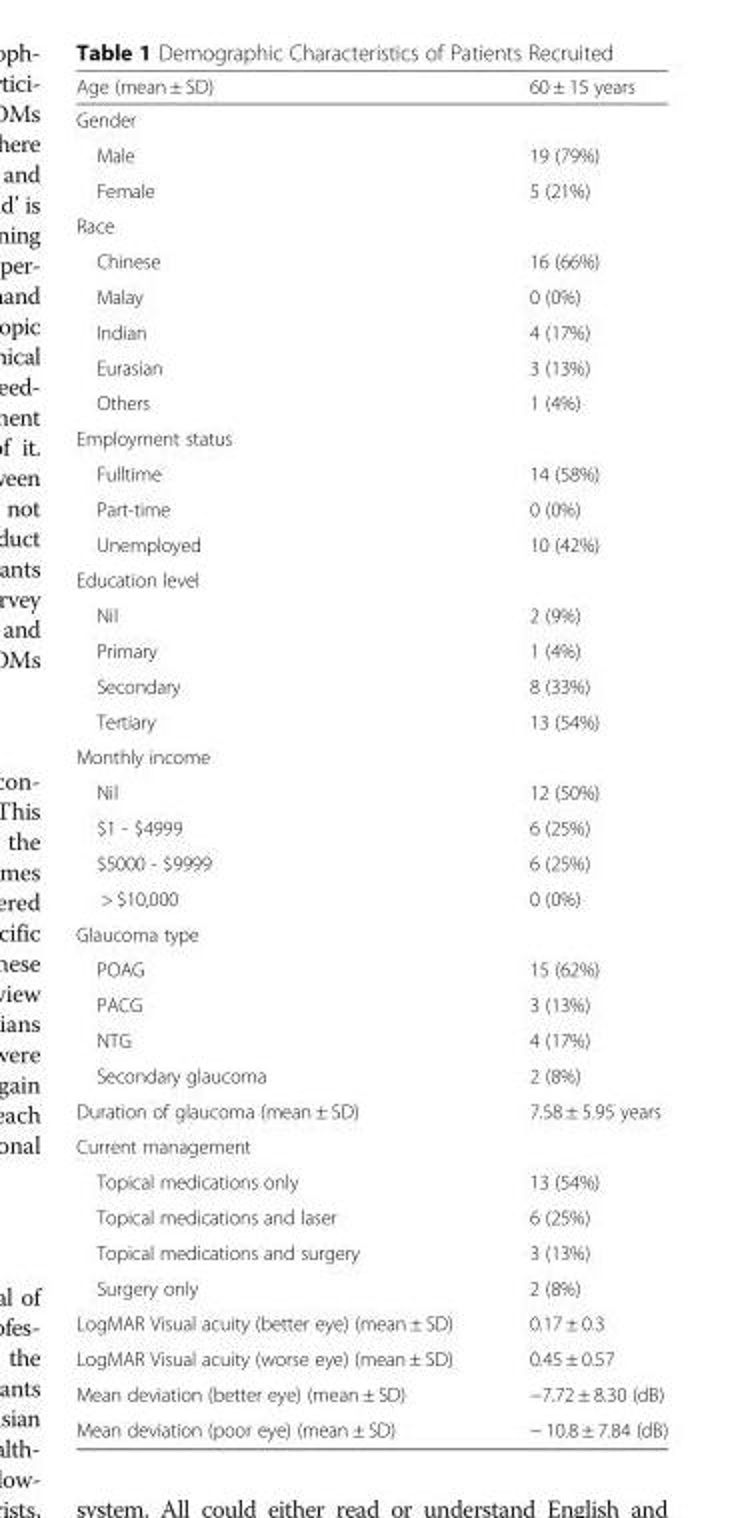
<table><thead><tr><td>Age (mean ± SD)</td><td>60 ± 15 years</td></tr></thead><tbody><tr><td colspan="2">Gender</td></tr><tr><td>Male</td><td>19 (79%)</td></tr><tr><td>Female</td><td>5 (21%)</td></tr><tr><td colspan="2">Race</td></tr><tr><td>Chinese</td><td>16 (66%)</td></tr><tr><td>Malay</td><td>0 (0%)</td></tr><tr><td>Indian</td><td>4 (17%)</td></tr><tr><td>Eurasian</td><td>3 (13%)</td></tr><tr><td>Others</td><td>1 (4%)</td></tr><tr><td colspan="2">Employment status</td></tr><tr><td>Fulltime</td><td>14 (58%)</td></tr><tr><td>Part-time</td><td>0 (0%)</td></tr><tr><td>Unemployed</td><td>10 (42%)</td></tr><tr><td colspan="2">Education level</td></tr><tr><td>Nil</td><td>2 (9%)</td></tr><tr><td>Primary</td><td>1 (4%)</td></tr><tr><td>Secondary</td><td>8 (33%)</td></tr><tr><td>Tertiary</td><td>13 (54%)</td></tr><tr><td colspan="2">Monthly income</td></tr><tr><td>Nil</td><td>12 (50%)</td></tr><tr><td>$1 - $4999</td><td>6 (25%)</td></tr><tr><td>$5000 - $9999</td><td>6 (25%)</td></tr><tr><td>&gt; $10,000</td><td>0 (0%)</td></tr><tr><td colspan="2">Glaucoma type</td></tr><tr><td>POAG</td><td>15 (62%)</td></tr><tr><td>PACG</td><td>3 (13%)</td></tr><tr><td>NTG</td><td>4 (17%)</td></tr><tr><td>Secondary glaucoma</td><td>2 (8%)</td></tr><tr><td>Duration of glaucoma (mean ± SD)</td><td>7.58 ± 5.95 years</td></tr><tr><td colspan="2">Current management</td></tr><tr><td>Topical medications only</td><td>13 (54%)</td></tr><tr><td>Topical medications and laser</td><td>6 (25%)</td></tr><tr><td>Topical medications and surgery</td><td>3 (13%)</td></tr><tr><td>Surgery only</td><td>2 (8%)</td></tr><tr><td>LogMAR Visual acuity (better eye) (mean ± SD)</td><td>0.17 ± 0.3</td></tr><tr><td>LogMAR Visual acuity (worse eye) (mean ± SD)</td><td>0.45 ± 0.57</td></tr><tr><td>Mean deviation (better eye) (mean ± SD)</td><td>−7.72 ± 8.30 (dB)</td></tr><tr><td>Mean deviation (poor eye) (mean ± SD)</td><td>− 10.8 ± 7.84 (dB)</td></tr></tbody></table>